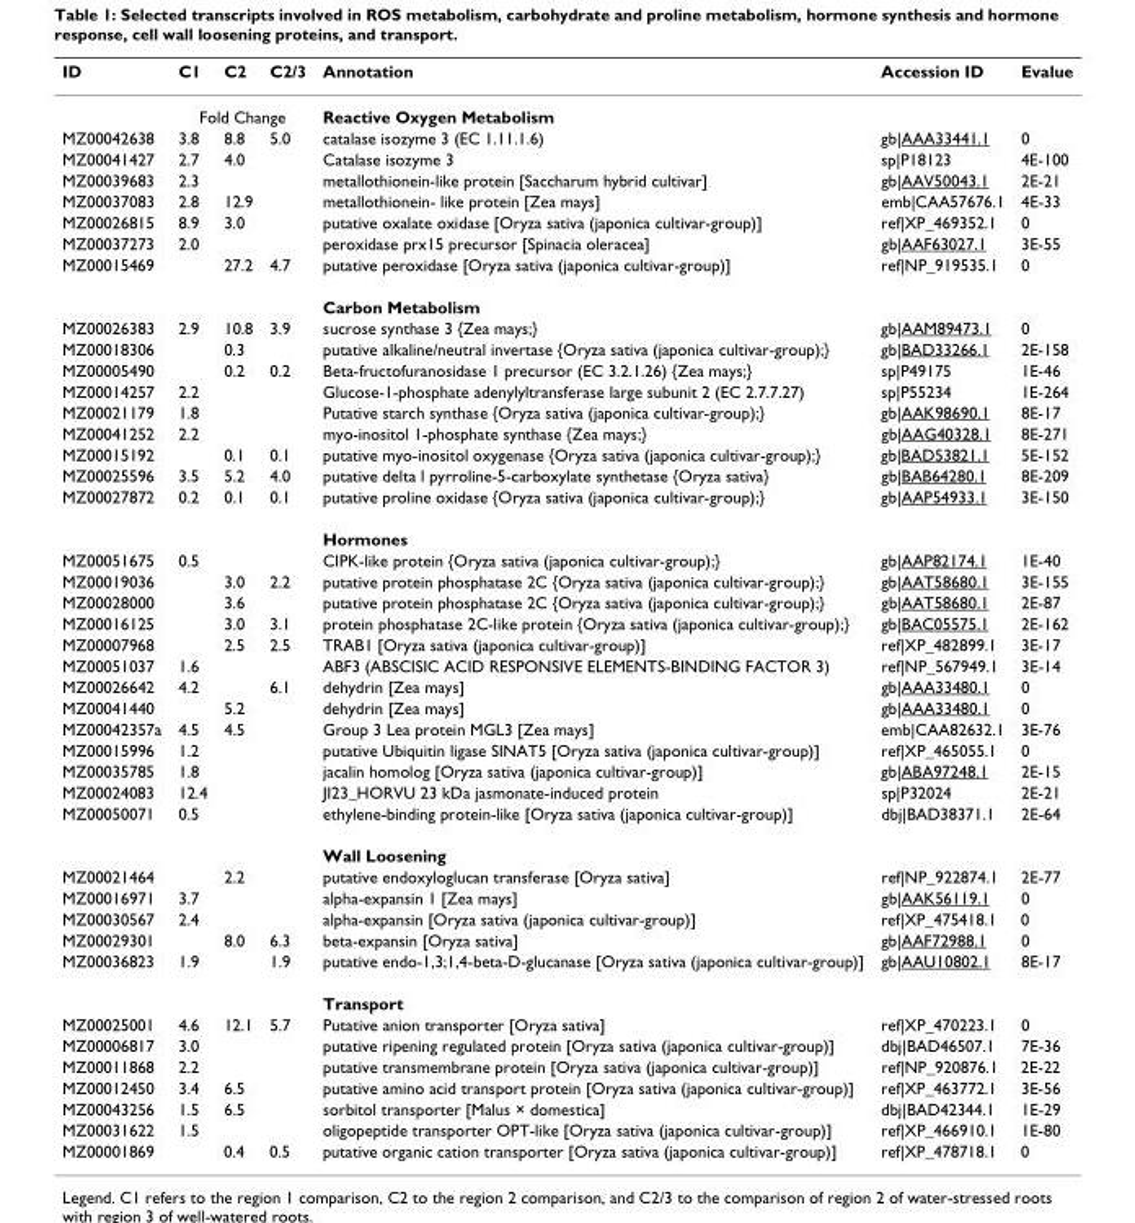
<table><thead><tr><td>ID</td><td>C1</td><td>C2</td><td>C2/3</td><td>Annotation</td><td>Accession ID</td><td>Evalue</td></tr></thead><tbody><tr><td></td><td colspan="3">Fold Change</td><td>Reactive Oxygen Metabolism</td><td></td><td></td></tr><tr><td>MZ00042638</td><td>3.8</td><td>8.8</td><td>5.0</td><td>catalase isozyme 3 (EC 1.11.1.6)</td><td>gb|AAA33441.1</td><td>0</td></tr><tr><td>MZ00041427</td><td>2.7</td><td>4.0</td><td></td><td>Catalase isozyme 3</td><td>sp|P18123</td><td>4E-100</td></tr><tr><td>MZ00039683</td><td>2.3</td><td></td><td></td><td>metallothionein-like protein [Saccharum hybrid cultivar]</td><td>gb|AAV50043.1</td><td>2E-21</td></tr><tr><td>MZ00037083</td><td>2.8</td><td>12.9</td><td></td><td>metallothionein- like protein [Zea mays]</td><td>emb|CAA57676.1</td><td>4E-33</td></tr><tr><td>MZ00026815</td><td>8.9</td><td>3.0</td><td></td><td>putative oxalate oxidase [Oryza sativa (japonica cultivar-group)]</td><td>ref|XP_469352.1</td><td>0</td></tr><tr><td>MZ00037273</td><td>2.0</td><td></td><td></td><td>peroxidase prx15 precursor [Spinacia oleracea]</td><td>gb|AAF63027.1</td><td>3E-55</td></tr><tr><td rowspan="2">MZ00015469</td><td></td><td>27.2</td><td>4.7</td><td>putative peroxidase [Oryza sativa (japonica cultivar-group)]</td><td>ref|NP_919535.1</td><td>0</td></tr><tr><td></td><td></td><td></td><td>Carbon Metabolism</td><td></td><td></td></tr><tr><td>MZ00026383</td><td>2.9</td><td>10.8</td><td>3.9</td><td>sucrose synthase 3 {Zea mays;}</td><td>gb|AAM89473.1</td><td>0</td></tr><tr><td>MZ00018306</td><td></td><td>0.3</td><td></td><td>putative alkaline/neutral invertase {Oryza sativa (japonica cultivar-group);}</td><td>gb|BAD33266.1</td><td>2E-158</td></tr><tr><td>MZ00005490</td><td></td><td>0.2</td><td>0.2</td><td>Beta-fructofuranosidase 1 precursor (EC 3.2.1.26) {Zea mays;}</td><td>sp|P49175</td><td>1E-46</td></tr><tr><td>MZ00014257</td><td>2.2</td><td></td><td></td><td>Glucose-1-phosphate adenylyltransferase large subunit 2 (EC 2.7.7.27)</td><td>sp|P55234</td><td>1E-264</td></tr><tr><td>MZ00021179</td><td>1.8</td><td></td><td></td><td>Putative starch synthase {Oryza sativa (japonica cultivar-group);}</td><td>gb|AAK98690.1</td><td>8E-17</td></tr><tr><td>MZ00041252</td><td>2.2</td><td></td><td></td><td>myo-inositol 1-phosphate synthase {Zea mays;}</td><td>gb|AAG40328.1</td><td>8E-271</td></tr><tr><td>MZ00015192</td><td></td><td>0.1</td><td>0.1</td><td>putative myo-inositol oxygenase {Oryza sativa (japonica cultivar-group);}</td><td>gb|BAD53821.1</td><td>5E-152</td></tr><tr><td>MZ00025596</td><td>3.5</td><td>5.2</td><td>4.0</td><td>putative delta l pyrroline-5-carboxylate synthetase {Oryza sativa}</td><td>gb|BAB64280.1</td><td>8E-209</td></tr><tr><td rowspan="2">MZ00027872</td><td>0.2</td><td>0.1</td><td>0.1</td><td>putative proline oxidase {Oryza sativa (japonica cultivar-group);}</td><td>gb|AAP54933.1</td><td>3E-150</td></tr><tr><td></td><td></td><td></td><td>Hormones</td><td></td><td></td></tr><tr><td>MZ00051675</td><td>0.5</td><td></td><td></td><td>CIPK-like protein {Oryza sativa (japonica cultivar-group);}</td><td>gb|AAP82174.1</td><td>1E-40</td></tr><tr><td>MZ00019036</td><td></td><td>3.0</td><td>2.2</td><td>putative protein phosphatase 2C {Oryza sativa (japonica cultivar-group);}</td><td>gb|AAT58680.1</td><td>3E-155</td></tr><tr><td>MZ00028000</td><td></td><td>3.6</td><td></td><td>putative protein phosphatase 2C {Oryza sativa (japonica cultivar-group);}</td><td>gb|AAT58680.1</td><td>2E-87</td></tr><tr><td>MZ00016125</td><td></td><td>3.0</td><td>3.1</td><td>protein phosphatase 2C-like protein {Oryza sativa (japonica cultivar-group);}</td><td>gb|BAC05575.1</td><td>2E-162</td></tr><tr><td>MZ00007968</td><td></td><td>2.5</td><td>2.5</td><td>TRAB1 [Oryza sativa (japonica cultivar-group)]</td><td>ref|XP_482899.1</td><td>3E-17</td></tr><tr><td>MZ00051037</td><td>1.6</td><td></td><td></td><td>ABF3 (ABSCISIC ACID RESPONSIVE ELEMENTS-BINDING FACTOR 3)</td><td>ref|NP_567949.1</td><td>3E-14</td></tr><tr><td>MZ00026642</td><td>4.2</td><td></td><td>6.1</td><td>dehydrin [Zea mays]</td><td>gb|AAA33480.1</td><td>0</td></tr><tr><td>MZ00041440</td><td></td><td>5.2</td><td></td><td>dehydrin [Zea mays]</td><td>gb|AAA33480.1</td><td>0</td></tr><tr><td>MZ00042357a</td><td>4.5</td><td>4.5</td><td></td><td>Group 3 Lea protein MGL3 [Zea mays]</td><td>emb|CAA82632.1</td><td>3E-76</td></tr><tr><td>MZ00015996</td><td>1.2</td><td></td><td></td><td>putative Ubiquitin ligase SINAT5 [Oryza sativa (japonica cultivar-group)]</td><td>ref|XP_465055.1</td><td>0</td></tr><tr><td>MZ00035785</td><td>1.8</td><td></td><td></td><td>jacalin homolog [Oryza sativa (japonica cultivar-group)]</td><td>gb|ABA97248.1</td><td>2E-15</td></tr><tr><td>MZ00024083</td><td>12.4</td><td></td><td></td><td>JI23_HORVU 23 kDa jasmonate-induced protein</td><td>sp|P32024</td><td>2E-21</td></tr><tr><td rowspan="2">MZ00050071</td><td>0.5</td><td></td><td></td><td>ethylene-binding protein-like [Oryza sativa (japonica cultivar-group)]</td><td>dbj|BAD38371.1</td><td>2E-64</td></tr><tr><td></td><td></td><td></td><td>Wall Loosening</td><td></td><td></td></tr><tr><td>MZ00021464</td><td></td><td>2.2</td><td></td><td>putative endoxyloglucan transferase [Oryza sativa]</td><td>ref|NP_922874.1</td><td>2E-77</td></tr><tr><td>MZ00016971</td><td>3.7</td><td></td><td></td><td>alpha-expansin 1 [Zea mays]</td><td>gb|AAK56119.1</td><td>0</td></tr><tr><td>MZ00030567</td><td>2.4</td><td></td><td></td><td>alpha-expansin [Oryza sativa (japonica cultivar-group)]</td><td>ref|XP_475418.1</td><td>0</td></tr><tr><td>MZ00029301</td><td></td><td>8.0</td><td>6.3</td><td>beta-expansin [Oryza sativa]</td><td>gb|AAF72988.1</td><td>0</td></tr><tr><td rowspan="2">MZ00036823</td><td>1.9</td><td></td><td>1.9</td><td>putative endo-1,3;1,4-beta-D-glucanase [Oryza sativa (japonica cultivar-group)]</td><td>gb|AAU10802.1</td><td>8E-17</td></tr><tr><td></td><td></td><td></td><td>Transport</td><td></td><td></td></tr><tr><td>MZ00025001</td><td>4.6</td><td>12.1</td><td>5.7</td><td>Putative anion transporter [Oryza sativa]</td><td>ref|XP_470223.1</td><td>0</td></tr><tr><td>MZ00006817</td><td>3.0</td><td></td><td></td><td>putative ripening regulated protein [Oryza sativa (japonica cultivar-group)]</td><td>dbj|BAD46507.1</td><td>7E-36</td></tr><tr><td>MZ00011868</td><td>2.2</td><td></td><td></td><td>putative transmembrane protein [Oryza sativa (japonica cultivar-group)]</td><td>ref|NP_920876.1</td><td>2E-22</td></tr><tr><td>MZ00012450</td><td>3.4</td><td>6.5</td><td></td><td>putative amino acid transport protein [Oryza sativa (japonica cultivar-group)]</td><td>ref|XP_463772.1</td><td>3E-56</td></tr><tr><td>MZ00043256</td><td>1.5</td><td>6.5</td><td></td><td>sorbitol transporter [Malus × domestica]</td><td>dbj|BAD42344.1</td><td>1E-29</td></tr><tr><td>MZ00031622</td><td>1.5</td><td></td><td></td><td>oligopeptide transporter OPT-like [Oryza sativa (japonica cultivar-group)]</td><td>ref|XP_466910.1</td><td>1E-80</td></tr><tr><td>MZ00001869</td><td></td><td>0.4</td><td>0.5</td><td>putative organic cation transporter [Oryza sativa (japonica cultivar-group)]</td><td>ref|XP_478718.1</td><td>0</td></tr></tbody></table>